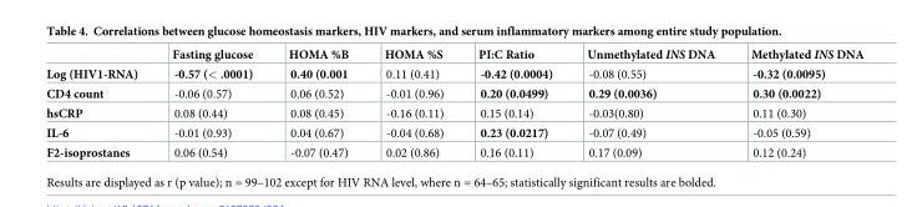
<table><thead><tr><td></td><td>Fasting glucose</td><td>HOMA %B</td><td>HOMA %S</td><td>PI:C Ratio</td><td>Unmethylated INS DNA</td><td>Methylated INS DNA</td></tr></thead><tbody><tr><td>Log (HIV1-RNA)</td><td>-0.57 (&lt; .0001)</td><td>0.40 (0.001</td><td>0.11 (0.41)</td><td>-0.42 (0.0004)</td><td>-0.08 (0.55)</td><td>-0.32 (0.0095)</td></tr><tr><td>CD4 count</td><td>-0.06 (0.57)</td><td>0.06 (0.52)</td><td>-0.01 (0.96)</td><td>0.20 (0.0499)</td><td>0.29 (0.0036)</td><td>0.30 (0.0022)</td></tr><tr><td>hsCRP</td><td>0.08 (0.44)</td><td>0.08 (0.45)</td><td>-0.16 (0.11)</td><td>0.15 (0.14)</td><td>-0.03(0.80)</td><td>0.11 (0.30)</td></tr><tr><td>IL-6</td><td>-0.01 (0.93)</td><td>0.04 (0.67)</td><td>-0.04 (0.68)</td><td>0.23 (0.0217)</td><td>-0.07 (0.49)</td><td>-0.05 (0.59)</td></tr><tr><td>F2-isoprostanes</td><td>0.06 (0.54)</td><td>-0.07 (0.47)</td><td>0.02 (0.86)</td><td>0.16 (0.11)</td><td>0.17 (0.09)</td><td>0.12 (0.24)</td></tr></tbody></table>